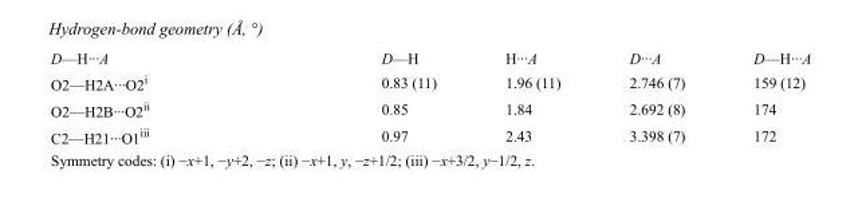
<table><tbody><tr><td>D—H···A</td><td>D—H</td><td>H···A</td><td>D···A</td><td>D—H···A</td></tr><tr><td>O2—H2A···O2<sup>i</sup></td><td>0.83 (11)</td><td>1.96 (11)</td><td>2.746 (7)</td><td>159 (12)</td></tr><tr><td>O2—H2B···O2<sup>ii</sup></td><td>0.85</td><td>1.84</td><td>2.692 (8)</td><td>174</td></tr><tr><td>C2—H21···O1<sup>iii</sup></td><td>0.97</td><td>2.43</td><td>3.398 (7)</td><td>172</td></tr></tbody></table>